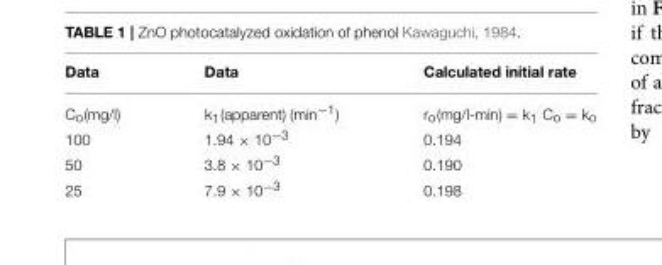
<table><thead><tr><td>Data</td><td>Data</td><td>Calculated initial rate</td></tr></thead><tbody><tr><td>C<sub>o</sub>(mg/l)</td><td>k<sub>1</sub>(apparent) (min<sup>−1</sup>)</td><td>r<sub>o</sub>(mg/l-min) = k<sub>1</sub> C<sub>o</sub> = k<sub>o</sub></td></tr><tr><td>100</td><td>1.94 × 10<sup>−3</sup></td><td>0.194</td></tr><tr><td>50</td><td>3.8 × 10<sup>−3</sup></td><td>0.190</td></tr><tr><td>25</td><td>7.9 × 10<sup>−3</sup></td><td>0.198</td></tr></tbody></table>